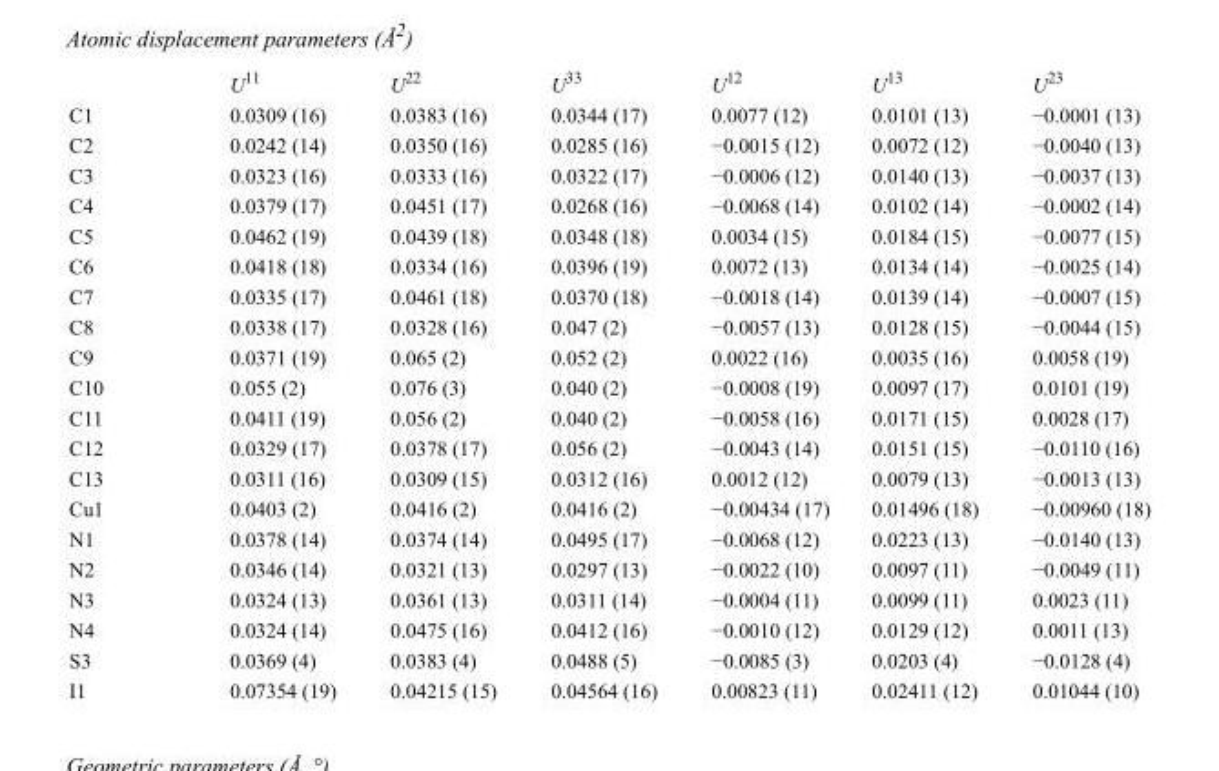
<table><thead><tr><td></td><td>U<sup>11</sup></td><td>U<sup>22</sup></td><td>U<sup>33</sup></td><td>U<sup>12</sup></td><td>U<sup>13</sup></td><td>U<sup>23</sup></td></tr></thead><tbody><tr><td>C1</td><td>0.0309 (16)</td><td>0.0383 (16)</td><td>0.0344 (17)</td><td>0.0077 (12)</td><td>0.0101 (13)</td><td>−0.0001 (13)</td></tr><tr><td>C2</td><td>0.0242 (14)</td><td>0.0350 (16)</td><td>0.0285 (16)</td><td>−0.0015 (12)</td><td>0.0072 (12)</td><td>−0.0040 (13)</td></tr><tr><td>C3</td><td>0.0323 (16)</td><td>0.0333 (16)</td><td>0.0322 (17)</td><td>−0.0006 (12)</td><td>0.0140 (13)</td><td>−0.0037 (13)</td></tr><tr><td>C4</td><td>0.0379 (17)</td><td>0.0451 (17)</td><td>0.0268 (16)</td><td>−0.0068 (14)</td><td>0.0102 (14)</td><td>−0.0002 (14)</td></tr><tr><td>C5</td><td>0.0462 (19)</td><td>0.0439 (18)</td><td>0.0348 (18)</td><td>0.0034 (15)</td><td>0.0184 (15)</td><td>−0.0077 (15)</td></tr><tr><td>C6</td><td>0.0418 (18)</td><td>0.0334 (16)</td><td>0.0396 (19)</td><td>0.0072 (13)</td><td>0.0134 (14)</td><td>−0.0025 (14)</td></tr><tr><td>C7</td><td>0.0335 (17)</td><td>0.0461 (18)</td><td>0.0370 (18)</td><td>−0.0018 (14)</td><td>0.0139 (14)</td><td>−0.0007 (15)</td></tr><tr><td>C8</td><td>0.0338 (17)</td><td>0.0328 (16)</td><td>0.047 (2)</td><td>−0.0057 (13)</td><td>0.0128 (15)</td><td>−0.0044 (15)</td></tr><tr><td>C9</td><td>0.0371 (19)</td><td>0.065 (2)</td><td>0.052 (2)</td><td>0.0022 (16)</td><td>0.0035 (16)</td><td>0.0058 (19)</td></tr><tr><td>C10</td><td>0.055 (2)</td><td>0.076 (3)</td><td>0.040 (2)</td><td>−0.0008 (19)</td><td>0.0097 (17)</td><td>0.0101 (19)</td></tr><tr><td>C11</td><td>0.0411 (19)</td><td>0.056 (2)</td><td>0.040 (2)</td><td>−0.0058 (16)</td><td>0.0171 (15)</td><td>0.0028 (17)</td></tr><tr><td>C12</td><td>0.0329 (17)</td><td>0.0378 (17)</td><td>0.056 (2)</td><td>−0.0043 (14)</td><td>0.0151 (15)</td><td>−0.0110 (16)</td></tr><tr><td>C13</td><td>0.0311 (16)</td><td>0.0309 (15)</td><td>0.0312 (16)</td><td>0.0012 (12)</td><td>0.0079 (13)</td><td>−0.0013 (13)</td></tr><tr><td>Cu1</td><td>0.0403 (2)</td><td>0.0416 (2)</td><td>0.0416 (2)</td><td>−0.00434 (17)</td><td>0.01496 (18)</td><td>−0.00960 (18)</td></tr><tr><td>N1</td><td>0.0378 (14)</td><td>0.0374 (14)</td><td>0.0495 (17)</td><td>−0.0068 (12)</td><td>0.0223 (13)</td><td>−0.0140 (13)</td></tr><tr><td>N2</td><td>0.0346 (14)</td><td>0.0321 (13)</td><td>0.0297 (13)</td><td>−0.0022 (10)</td><td>0.0097 (11)</td><td>−0.0049 (11)</td></tr><tr><td>N3</td><td>0.0324 (13)</td><td>0.0361 (13)</td><td>0.0311 (14)</td><td>−0.0004 (11)</td><td>0.0099 (11)</td><td>0.0023 (11)</td></tr><tr><td>N4</td><td>0.0324 (14)</td><td>0.0475 (16)</td><td>0.0412 (16)</td><td>−0.0010 (12)</td><td>0.0129 (12)</td><td>0.0011 (13)</td></tr><tr><td>S3</td><td>0.0369 (4)</td><td>0.0383 (4)</td><td>0.0488 (5)</td><td>−0.0085 (3)</td><td>0.0203 (4)</td><td>−0.0128 (4)</td></tr><tr><td>I1</td><td>0.07354 (19)</td><td>0.04215 (15)</td><td>0.04564 (16)</td><td>0.00823 (11)</td><td>0.02411 (12)</td><td>0.01044 (10)</td></tr></tbody></table>